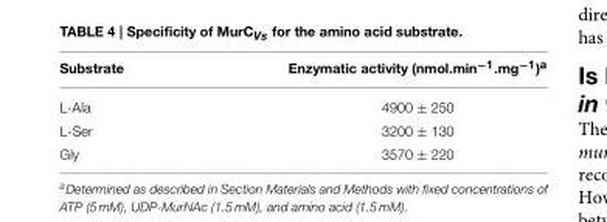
<table><thead><tr><td>Substrate</td><td>Enzymatic activity (nmol.min<sup>−1</sup>.mg<sup>−1</sup>)<sup>a</sup></td></tr></thead><tbody><tr><td>L-Ala</td><td>4900 ± 250</td></tr><tr><td>L-Ser</td><td>3200 ± 130</td></tr><tr><td>Gly</td><td>3570 ± 220</td></tr></tbody></table>